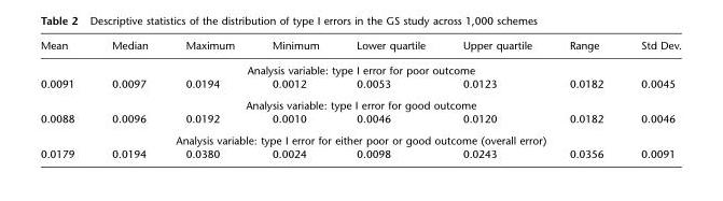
<table><thead><tr><td>Mean</td><td>Median</td><td>Maximum</td><td>Minimum</td><td>Lower quartile</td><td>Upper quartile</td><td>Range</td><td>Std Dev.</td></tr></thead><tbody><tr><td colspan="8">Analysis variable: type I error for poor outcome</td></tr><tr><td>0.0091</td><td>0.0097</td><td>0.0194</td><td>0.0012</td><td>0.0053</td><td>0.0123</td><td>0.0182</td><td>0.0045</td></tr><tr><td colspan="8">Analysis variable: type I error for good outcome</td></tr><tr><td>0.0088</td><td>0.0096</td><td>0.0192</td><td>0.0010</td><td>0.0046</td><td>0.0120</td><td>0.0182</td><td>0.0046</td></tr><tr><td colspan="8">Analysis variable: type I error for either poor or good outcome (overall error)</td></tr><tr><td>0.0179</td><td>0.0194</td><td>0.0380</td><td>0.0024</td><td>0.0098</td><td>0.0243</td><td>0.0356</td><td>0.0091</td></tr></tbody></table>